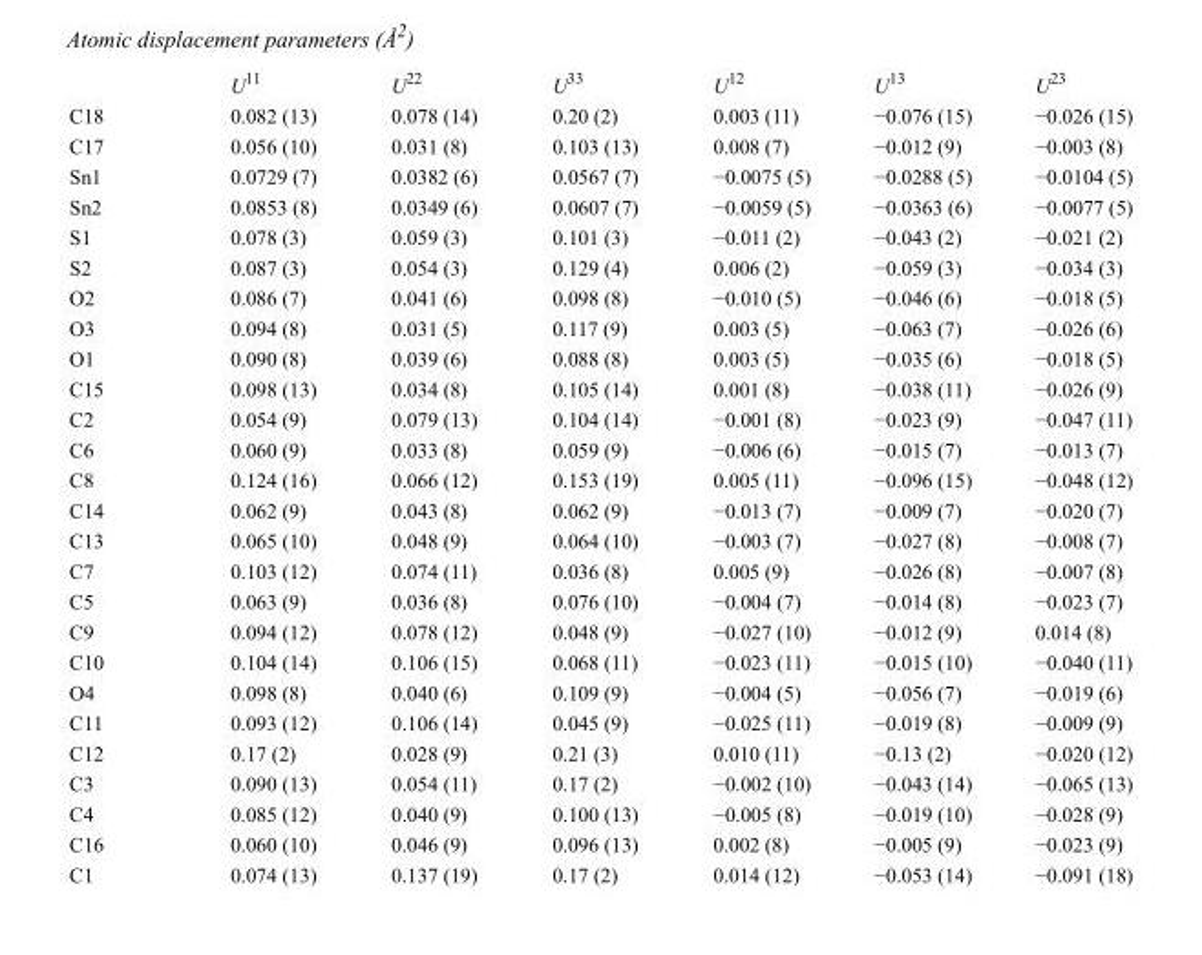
<table><thead><tr><td></td><td>U<sup>11</sup></td><td>U<sup>22</sup></td><td>U<sup>33</sup></td><td>U<sup>12</sup></td><td>U<sup>13</sup></td><td>U<sup>23</sup></td></tr></thead><tbody><tr><td>C18</td><td>0.082 (13)</td><td>0.078 (14)</td><td>0.20 (2)</td><td>0.003 (11)</td><td>−0.076 (15)</td><td>−0.026 (15)</td></tr><tr><td>C17</td><td>0.056 (10)</td><td>0.031 (8)</td><td>0.103 (13)</td><td>0.008 (7)</td><td>−0.012 (9)</td><td>−0.003 (8)</td></tr><tr><td>Sn1</td><td>0.0729 (7)</td><td>0.0382 (6)</td><td>0.0567 (7)</td><td>−0.0075 (5)</td><td>−0.0288 (5)</td><td>−0.0104 (5)</td></tr><tr><td>Sn2</td><td>0.0853 (8)</td><td>0.0349 (6)</td><td>0.0607 (7)</td><td>−0.0059 (5)</td><td>−0.0363 (6)</td><td>−0.0077 (5)</td></tr><tr><td>S1</td><td>0.078 (3)</td><td>0.059 (3)</td><td>0.101 (3)</td><td>−0.011 (2)</td><td>−0.043 (2)</td><td>−0.021 (2)</td></tr><tr><td>S2</td><td>0.087 (3)</td><td>0.054 (3)</td><td>0.129 (4)</td><td>0.006 (2)</td><td>−0.059 (3)</td><td>−0.034 (3)</td></tr><tr><td>O2</td><td>0.086 (7)</td><td>0.041 (6)</td><td>0.098 (8)</td><td>−0.010 (5)</td><td>−0.046 (6)</td><td>−0.018 (5)</td></tr><tr><td>O3</td><td>0.094 (8)</td><td>0.031 (5)</td><td>0.117 (9)</td><td>0.003 (5)</td><td>−0.063 (7)</td><td>−0.026 (6)</td></tr><tr><td>O1</td><td>0.090 (8)</td><td>0.039 (6)</td><td>0.088 (8)</td><td>0.003 (5)</td><td>−0.035 (6)</td><td>−0.018 (5)</td></tr><tr><td>C15</td><td>0.098 (13)</td><td>0.034 (8)</td><td>0.105 (14)</td><td>0.001 (8)</td><td>−0.038 (11)</td><td>−0.026 (9)</td></tr><tr><td>C2</td><td>0.054 (9)</td><td>0.079 (13)</td><td>0.104 (14)</td><td>−0.001 (8)</td><td>−0.023 (9)</td><td>−0.047 (11)</td></tr><tr><td>C6</td><td>0.060 (9)</td><td>0.033 (8)</td><td>0.059 (9)</td><td>−0.006 (6)</td><td>−0.015 (7)</td><td>−0.013 (7)</td></tr><tr><td>C8</td><td>0.124 (16)</td><td>0.066 (12)</td><td>0.153 (19)</td><td>0.005 (11)</td><td>−0.096 (15)</td><td>−0.048 (12)</td></tr><tr><td>C14</td><td>0.062 (9)</td><td>0.043 (8)</td><td>0.062 (9)</td><td>−0.013 (7)</td><td>−0.009 (7)</td><td>−0.020 (7)</td></tr><tr><td>C13</td><td>0.065 (10)</td><td>0.048 (9)</td><td>0.064 (10)</td><td>−0.003 (7)</td><td>−0.027 (8)</td><td>−0.008 (7)</td></tr><tr><td>C7</td><td>0.103 (12)</td><td>0.074 (11)</td><td>0.036 (8)</td><td>0.005 (9)</td><td>−0.026 (8)</td><td>−0.007 (8)</td></tr><tr><td>C5</td><td>0.063 (9)</td><td>0.036 (8)</td><td>0.076 (10)</td><td>−0.004 (7)</td><td>−0.014 (8)</td><td>−0.023 (7)</td></tr><tr><td>C9</td><td>0.094 (12)</td><td>0.078 (12)</td><td>0.048 (9)</td><td>−0.027 (10)</td><td>−0.012 (9)</td><td>0.014 (8)</td></tr><tr><td>C10</td><td>0.104 (14)</td><td>0.106 (15)</td><td>0.068 (11)</td><td>−0.023 (11)</td><td>−0.015 (10)</td><td>−0.040 (11)</td></tr><tr><td>O4</td><td>0.098 (8)</td><td>0.040 (6)</td><td>0.109 (9)</td><td>−0.004 (5)</td><td>−0.056 (7)</td><td>−0.019 (6)</td></tr><tr><td>C11</td><td>0.093 (12)</td><td>0.106 (14)</td><td>0.045 (9)</td><td>−0.025 (11)</td><td>−0.019 (8)</td><td>−0.009 (9)</td></tr><tr><td>C12</td><td>0.17 (2)</td><td>0.028 (9)</td><td>0.21 (3)</td><td>0.010 (11)</td><td>−0.13 (2)</td><td>−0.020 (12)</td></tr><tr><td>C3</td><td>0.090 (13)</td><td>0.054 (11)</td><td>0.17 (2)</td><td>−0.002 (10)</td><td>−0.043 (14)</td><td>−0.065 (13)</td></tr><tr><td>C4</td><td>0.085 (12)</td><td>0.040 (9)</td><td>0.100 (13)</td><td>−0.005 (8)</td><td>−0.019 (10)</td><td>−0.028 (9)</td></tr><tr><td>C16</td><td>0.060 (10)</td><td>0.046 (9)</td><td>0.096 (13)</td><td>0.002 (8)</td><td>−0.005 (9)</td><td>−0.023 (9)</td></tr><tr><td>C1</td><td>0.074 (13)</td><td>0.137 (19)</td><td>0.17 (2)</td><td>0.014 (12)</td><td>−0.053 (14)</td><td>−0.091 (18)</td></tr></tbody></table>